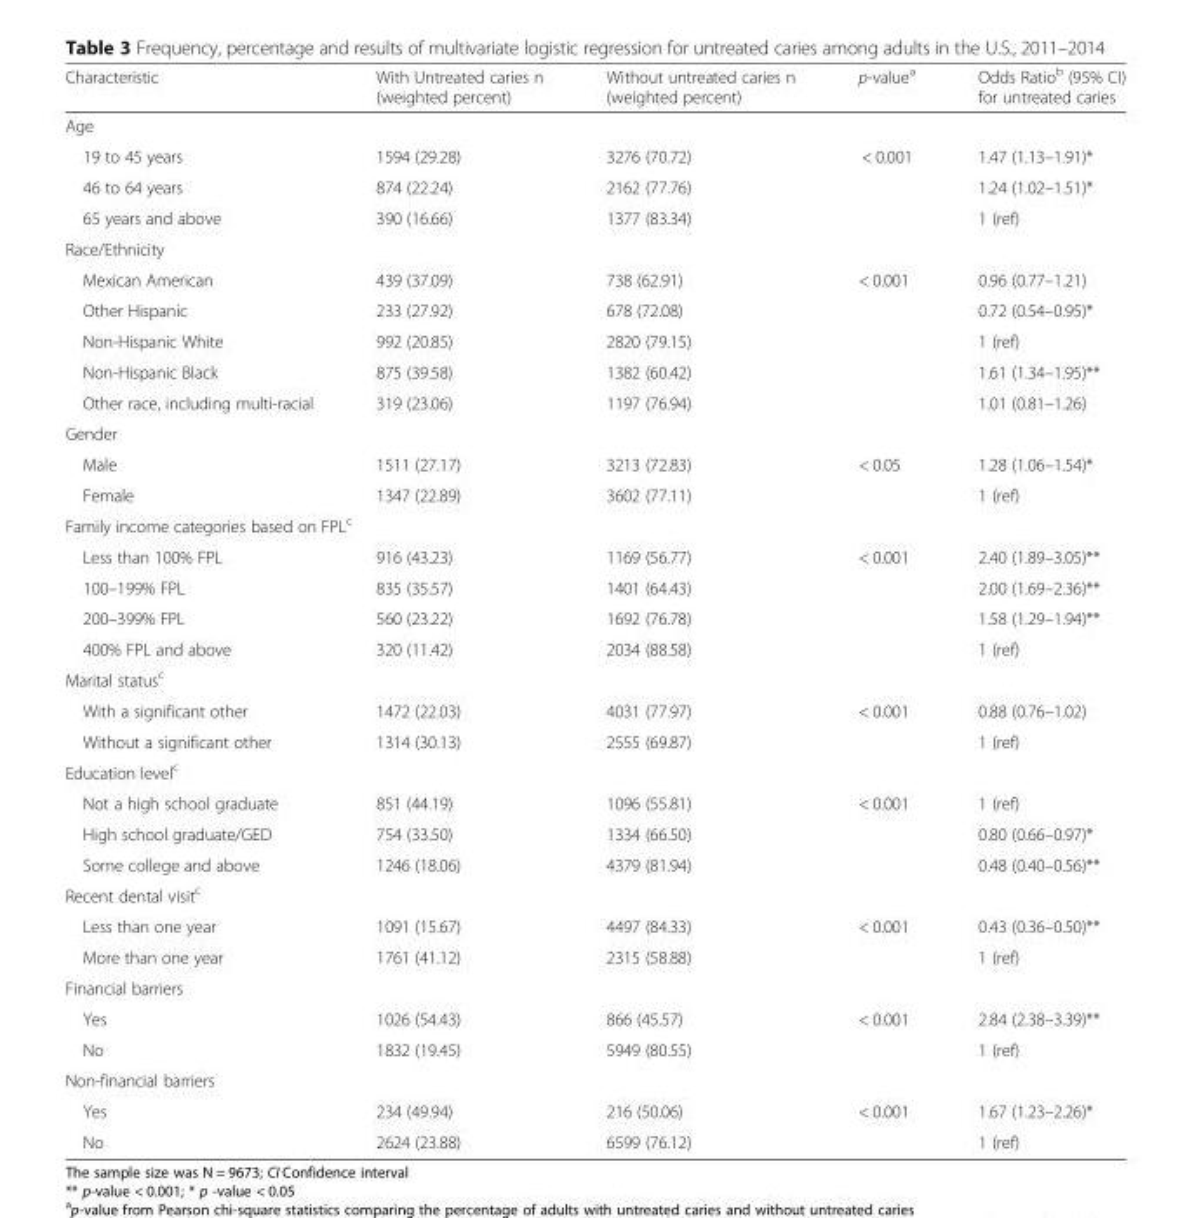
<table><thead><tr><td>Characteristic</td><td>With Untreated caries n (weighted percent)</td><td>Without untreated caries n (weighted percent)</td><td>p-value<sup>a</sup></td><td>Odds Ratio<sup>b</sup> (95% CI) for untreated caries</td></tr></thead><tbody><tr><td colspan="5">Age</td></tr><tr><td>19 to 45 years</td><td>1594 (29.28)</td><td>3276 (70.72)</td><td rowspan="3">&lt; 0.001</td><td>1.47 (1.13–1.91)*</td></tr><tr><td>46 to 64 years</td><td>874 (22.24)</td><td>2162 (77.76)</td><td>1.24 (1.02–1.51)*</td></tr><tr><td>65 years and above</td><td>390 (16.66)</td><td>1377 (83.34)</td><td>1 (ref)</td></tr><tr><td colspan="5">Race/Ethnicity</td></tr><tr><td>Mexican American</td><td>439 (37.09)</td><td>738 (62.91)</td><td rowspan="5">&lt; 0.001</td><td>0.96 (0.77–1.21)</td></tr><tr><td>Other Hispanic</td><td>233 (27.92)</td><td>678 (72.08)</td><td>0.72 (0.54–0.95)*</td></tr><tr><td>Non-Hispanic White</td><td>992 (20.85)</td><td>2820 (79.15)</td><td>1 (ref)</td></tr><tr><td>Non-Hispanic Black</td><td>875 (39.58)</td><td>1382 (60.42)</td><td>1.61 (1.34–1.95)**</td></tr><tr><td>Other race, including multi-racial</td><td>319 (23.06)</td><td>1197 (76.94)</td><td>1.01 (0.81–1.26)</td></tr><tr><td colspan="5">Gender</td></tr><tr><td>Male</td><td>1511 (27.17)</td><td>3213 (72.83)</td><td rowspan="2">&lt; 0.05</td><td>1.28 (1.06–1.54)*</td></tr><tr><td>Female</td><td>1347 (22.89)</td><td>3602 (77.11)</td><td>1 (ref)</td></tr><tr><td colspan="5">Family income categories based on FPL<sup>c</sup></td></tr><tr><td>Less than 100% FPL</td><td>916 (43.23)</td><td>1169 (56.77)</td><td rowspan="4">&lt; 0.001</td><td>2.40 (1.89–3.05)**</td></tr><tr><td>100–199% FPL</td><td>835 (35.57)</td><td>1401 (64.43)</td><td>2.00 (1.69–2.36)**</td></tr><tr><td>200–399% FPL</td><td>560 (23.22)</td><td>1692 (76.78)</td><td>1.58 (1.29–1.94)**</td></tr><tr><td>400% FPL and above</td><td>320 (11.42)</td><td>2034 (88.58)</td><td>1 (ref)</td></tr><tr><td colspan="5">Marital status<sup>c</sup></td></tr><tr><td>With a significant other</td><td>1472 (22.03)</td><td>4031 (77.97)</td><td rowspan="2">&lt; 0.001</td><td>0.88 (0.76–1.02)</td></tr><tr><td>Without a significant other</td><td>1314 (30.13)</td><td>2555 (69.87)</td><td>1 (ref)</td></tr><tr><td colspan="5">Education level<sup>c</sup></td></tr><tr><td>Not a high school graduate</td><td>851 (44.19)</td><td>1096 (55.81)</td><td rowspan="3">&lt; 0.001</td><td>1 (ref)</td></tr><tr><td>High school graduate/GED</td><td>754 (33.50)</td><td>1334 (66.50)</td><td>0.80 (0.66–0.97)*</td></tr><tr><td>Some college and above</td><td>1246 (18.06)</td><td>4379 (81.94)</td><td>0.48 (0.40–0.56)**</td></tr><tr><td colspan="5">Recent dental visit<sup>c</sup></td></tr><tr><td>Less than one year</td><td>1091 (15.67)</td><td>4497 (84.33)</td><td rowspan="2">&lt; 0.001</td><td>0.43 (0.36–0.50)**</td></tr><tr><td>More than one year</td><td>1761 (41.12)</td><td>2315 (58.88)</td><td>1 (ref)</td></tr><tr><td colspan="5">Financial barriers</td></tr><tr><td>Yes</td><td>1026 (54.43)</td><td>866 (45.57)</td><td rowspan="2">&lt; 0.001</td><td>2.84 (2.38–3.39)**</td></tr><tr><td>No</td><td>1832 (19.45)</td><td>5949 (80.55)</td><td>1 (ref)</td></tr><tr><td colspan="5">Non-financial barriers</td></tr><tr><td>Yes</td><td>234 (49.94)</td><td>216 (50.06)</td><td rowspan="2">&lt; 0.001</td><td>1.67 (1.23–2.26)*</td></tr><tr><td>No</td><td>2624 (23.88)</td><td>6599 (76.12)</td><td>1 (ref)</td></tr></tbody></table>